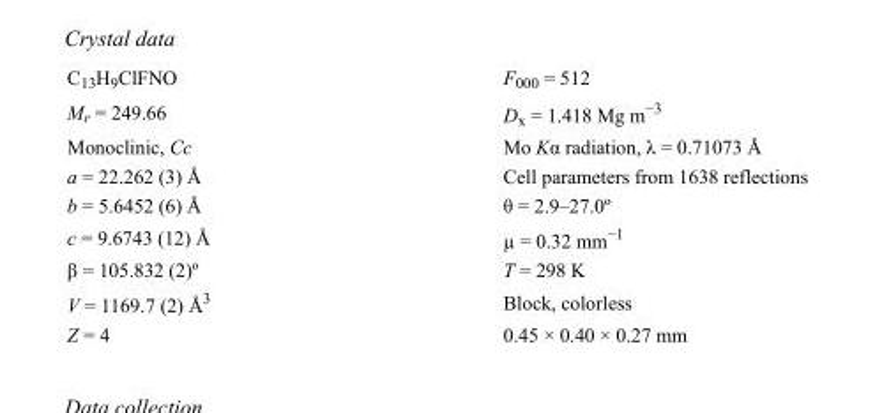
<table><tbody><tr><td>C<sub>13</sub>H<sub>9</sub>ClFNO</td><td>F000 = 512</td></tr><tr><td>M<sub>r</sub> = 249.66</td><td>D<sub>x</sub> = 1.418 Mg m<sup>−3</sup></td></tr><tr><td>Monoclinic, Cc</td><td>Mo Kα radiation, λ = 0.71073 Å</td></tr><tr><td>a = 22.262 (3) Å</td><td>Cell parameters from 1638 reflections</td></tr><tr><td>b = 5.6452 (6) Å</td><td>θ = 2.9–27.0º</td></tr><tr><td>c = 9.6743 (12) Å</td><td>µ = 0.32 mm<sup>−1</sup></td></tr><tr><td>β = 105.832 (2)º</td><td>T = 298 K</td></tr><tr><td>V = 1169.7 (2) Å<sup>3</sup></td><td>Block, colorless</td></tr><tr><td>Z = 4</td><td>0.45 × 0.40 × 0.27 mm</td></tr></tbody></table>